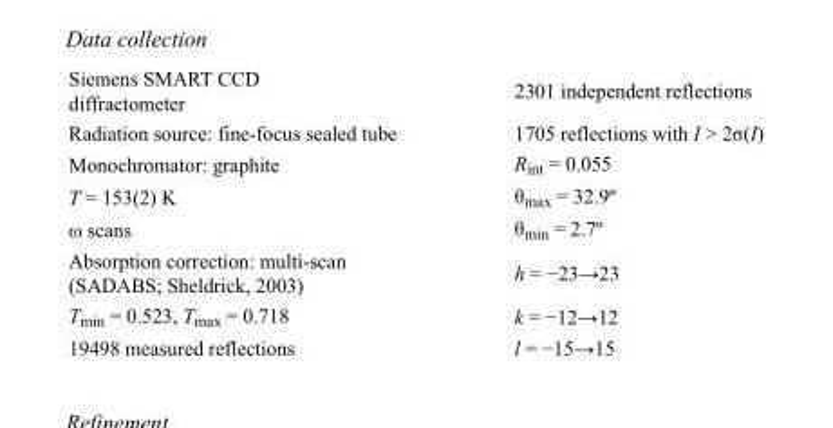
<table><tbody><tr><td>Siemens SMART CCD diffractometer</td><td>2301 independent reflections</td></tr><tr><td>Radiation source: fine-focus sealed tube</td><td>1705 reflections with I &gt; 2σ(I)</td></tr><tr><td>Monochromator: graphite</td><td>R<sub>int</sub> = 0.055</td></tr><tr><td>T = 153(2) K</td><td>θ<sub>max</sub> = 32.9º</td></tr><tr><td>ω scans</td><td>θ<sub>min</sub> = 2.7º</td></tr><tr><td>Absorption correction: multi-scan (SADABS; Sheldrick, 2003)</td><td>h = −23→23</td></tr><tr><td>T<sub>min</sub> = 0.523, T<sub>max</sub> = 0.718</td><td>k = −12→12</td></tr><tr><td>19498 measured reflections</td><td>l = −15→15</td></tr></tbody></table>